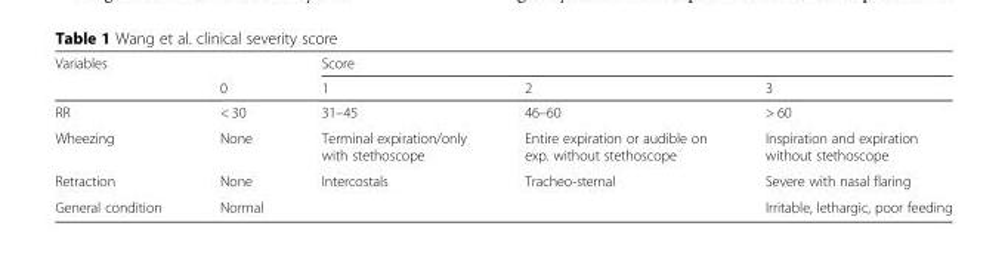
<table><thead><tr><td rowspan="2">Variables</td><td rowspan="2">0</td><td colspan="3">Score</td></tr><tr><td>1</td><td>2</td><td>3</td></tr></thead><tbody><tr><td>RR</td><td>&lt; 30</td><td>31–45</td><td>46–60</td><td>&gt; 60</td></tr><tr><td>Wheezing</td><td>None</td><td>Terminal expiration/only with stethoscope</td><td>Entire expiration or audible on exp. without stethoscope</td><td>Inspiration and expiration without stethoscope</td></tr><tr><td>Retraction</td><td>None</td><td>Intercostals</td><td>Tracheo-sternal</td><td>Severe with nasal flaring</td></tr><tr><td>General condition</td><td>Normal</td><td></td><td></td><td>Irritable, lethargic, poor feeding</td></tr></tbody></table>